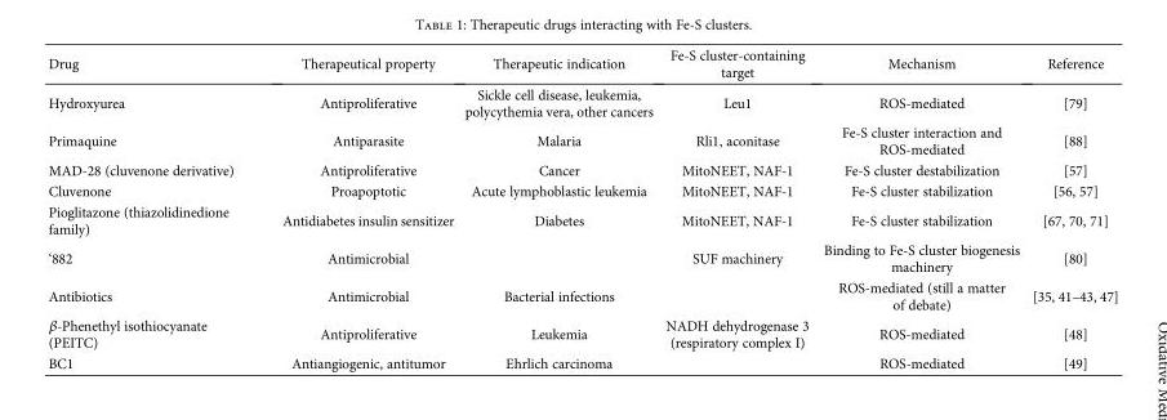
<table><thead><tr><td>Drug</td><td>Therapeutical property</td><td>Therapeutic indication</td><td>Fe-S cluster-containing target</td><td>Mechanism</td><td>Reference</td></tr></thead><tbody><tr><td>Hydroxyurea</td><td>Antiproliferative</td><td>Sickle cell disease, leukemia, polycythemia vera, other cancers</td><td>Leu1</td><td>ROS-mediated</td><td>[79]</td></tr><tr><td>Primaquine</td><td>Antiparasite</td><td>Malaria</td><td>Rli1, aconitase</td><td>Fe-S cluster interaction and ROS-mediated</td><td>[88]</td></tr><tr><td>MAD-28 (cluvenone derivative)</td><td>Antiproliferative</td><td>Cancer</td><td>MitoNEET, NAF-1</td><td>Fe-S cluster destabilization</td><td>[57]</td></tr><tr><td>Cluvenone</td><td>Proapoptotic</td><td>Acute lymphoblastic leukemia</td><td>MitoNEET, NAF-1</td><td>Fe-S cluster stabilization</td><td>[56, 57]</td></tr><tr><td>Pioglitazone (thiazolidinedione family)</td><td>Antidiabetes insulin sensitizer</td><td>Diabetes</td><td>MitoNEET, NAF-1</td><td>Fe-S cluster stabilization</td><td>[67, 70, 71]</td></tr><tr><td>‘882</td><td>Antimicrobial</td><td></td><td>SUF machinery</td><td>Binding to Fe-S cluster biogenesis machinery</td><td>[80]</td></tr><tr><td>Antibiotics</td><td>Antimicrobial</td><td>Bacterial infections</td><td></td><td>ROS-mediated (still a matter of debate)</td><td>[35, 41–43, 47]</td></tr><tr><td>β-Phenethyl isothiocyanate (PEITC)</td><td>Antiproliferative</td><td>Leukemia</td><td>NADH dehydrogenase 3 (respiratory complex I)</td><td>ROS-mediated</td><td>[48]</td></tr><tr><td>BC1</td><td>Antiangiogenic, antitumor</td><td>Ehrlich carcinoma</td><td></td><td>ROS-mediated</td><td>[49]</td></tr></tbody></table>